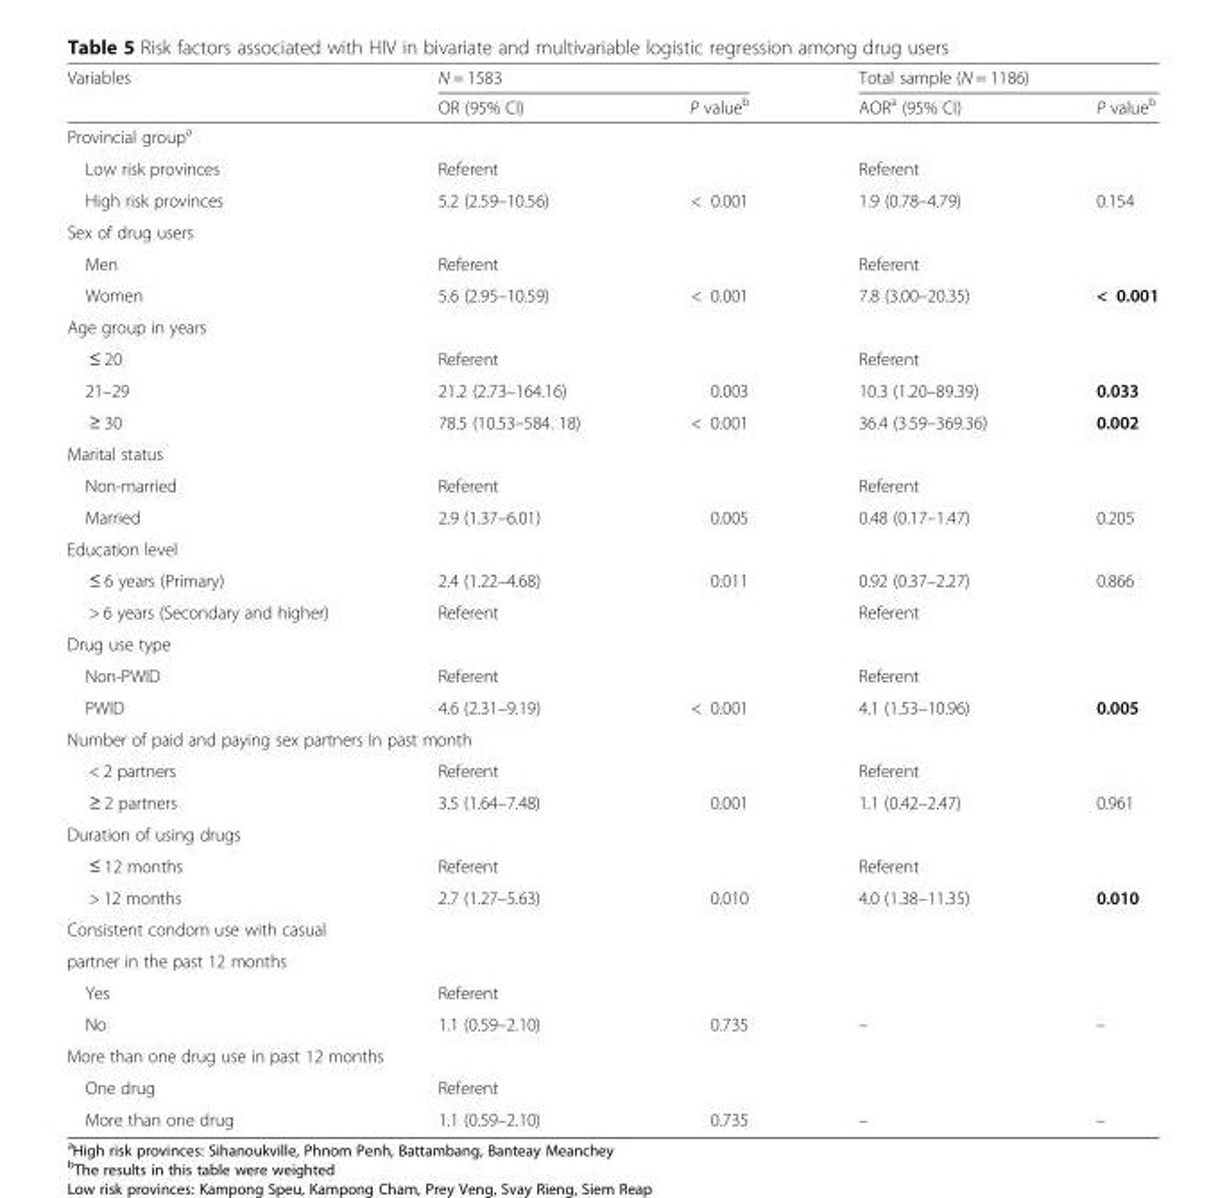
<table><thead><tr><td rowspan="2">Variables</td><td colspan="2">N = 1583</td><td colspan="2">Total sample (N = 1186)</td></tr><tr><td>OR (95% CI)</td><td>P value<sup>b</sup></td><td>AOR<sup>a</sup> (95% CI)</td><td>P value<sup>b</sup></td></tr></thead><tbody><tr><td colspan="5">Provincial group<sup>a</sup></td></tr><tr><td>Low risk provinces</td><td>Referent</td><td></td><td>Referent</td><td></td></tr><tr><td>High risk provinces</td><td>5.2 (2.59–10.56)</td><td>&lt; 0.001</td><td>1.9 (0.78–4.79)</td><td>0.154</td></tr><tr><td colspan="5">Sex of drug users</td></tr><tr><td>Men</td><td>Referent</td><td></td><td>Referent</td><td></td></tr><tr><td>Women</td><td>5.6 (2.95–10.59)</td><td>&lt; 0.001</td><td>7.8 (3.00–20.35)</td><td>&lt; 0.001</td></tr><tr><td colspan="5">Age group in years</td></tr><tr><td>≤ 20</td><td>Referent</td><td></td><td>Referent</td><td></td></tr><tr><td>21–29</td><td>21.2 (2.73–164.16)</td><td>0.003</td><td>10.3 (1.20–89.39)</td><td>0.033</td></tr><tr><td>≥ 30</td><td>78.5 (10.53–584. 18)</td><td>&lt; 0.001</td><td>36.4 (3.59–369.36)</td><td>0.002</td></tr><tr><td colspan="5">Marital status</td></tr><tr><td>Non-married</td><td>Referent</td><td></td><td>Referent</td><td></td></tr><tr><td>Married</td><td>2.9 (1.37–6.01)</td><td>0.005</td><td>0.48 (0.17–1.47)</td><td>0.205</td></tr><tr><td colspan="5">Education level</td></tr><tr><td>≤ 6 years (Primary)</td><td>2.4 (1.22–4.68)</td><td>0.011</td><td>0.92 (0.37–2.27)</td><td>0.866</td></tr><tr><td>&gt; 6 years (Secondary and higher)</td><td>Referent</td><td></td><td>Referent</td><td></td></tr><tr><td colspan="5">Drug use type</td></tr><tr><td>Non-PWID</td><td>Referent</td><td></td><td>Referent</td><td></td></tr><tr><td>PWID</td><td>4.6 (2.31–9.19)</td><td>&lt; 0.001</td><td>4.1 (1.53–10.96)</td><td>0.005</td></tr><tr><td colspan="5">Number of paid and paying sex partners In past month</td></tr><tr><td>&lt; 2 partners</td><td>Referent</td><td></td><td>Referent</td><td></td></tr><tr><td>≥ 2 partners</td><td>3.5 (1.64–7.48)</td><td>0.001</td><td>1.1 (0.42–2.47)</td><td>0.961</td></tr><tr><td colspan="5">Duration of using drugs</td></tr><tr><td>≤ 12 months</td><td>Referent</td><td></td><td>Referent</td><td></td></tr><tr><td>&gt; 12 months</td><td>2.7 (1.27–5.63)</td><td>0.010</td><td>4.0 (1.38–11.35)</td><td>0.010</td></tr><tr><td colspan="5">Consistent condom use with casual</td></tr><tr><td colspan="5">partner in the past 12 months</td></tr><tr><td>Yes</td><td>Referent</td><td></td><td></td><td></td></tr><tr><td>No</td><td>1.1 (0.59–2.10)</td><td>0.735</td><td>–</td><td>–</td></tr><tr><td colspan="5">More than one drug use in past 12 months</td></tr><tr><td>One drug</td><td>Referent</td><td></td><td></td><td></td></tr><tr><td>More than one drug</td><td>1.1 (0.59–2.10)</td><td>0.735</td><td>–</td><td>–</td></tr></tbody></table>